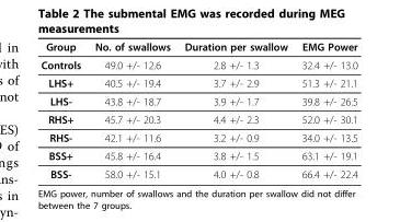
<table><thead><tr><td>Group</td><td>No. of swallows</td><td>Duration per swallow</td><td>EMG Power</td></tr></thead><tbody><tr><td>Controls</td><td>49.0 +/- 12.6</td><td>2.8 +/- 1.3</td><td>32.4 +/- 13.0</td></tr><tr><td>LHS+</td><td>40.5 +/- 19.4</td><td>3.7 +/- 2.9</td><td>51.3 +/- 21.1</td></tr><tr><td>LHS-</td><td>43.8 +/- 18.7</td><td>3.9 +/- 1.7</td><td>39.8 +/- 26.5</td></tr><tr><td>RHS+</td><td>45.7 +/- 20.3</td><td>4.4 +/- 2.3</td><td>52.0 +/- 30.1</td></tr><tr><td>RHS-</td><td>42.1 +/- 11.6</td><td>3.2 +/- 0.9</td><td>34.0 +/- 13.5</td></tr><tr><td>BSS+</td><td>45.8 +/- 16.4</td><td>3.8 +/- 1.5</td><td>63.1 +/- 19.1</td></tr><tr><td>BSS-</td><td>58.0 +/- 15.1</td><td>4.0 +/- 0.8</td><td>66.4 +/- 22.4</td></tr></tbody></table>